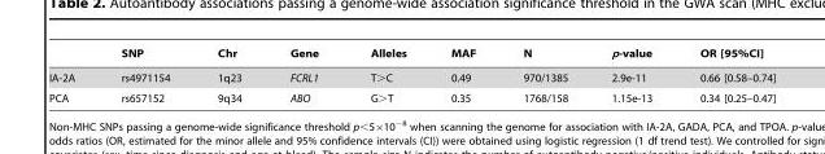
<table><thead><tr><td></td><td>SNP</td><td>Chr</td><td>Gene</td><td>Alleles</td><td>MAF</td><td>N</td><td>p-value</td><td>OR [95%CI]</td></tr></thead><tbody><tr><td>IA-2A</td><td>rs4971154</td><td>1q23</td><td>FCRL1</td><td>T&gt;C</td><td>0.49</td><td>970/1385</td><td>2.9e-11</td><td>0.66 [0.58–0.74]</td></tr><tr><td>PCA</td><td>rs657152</td><td>9q34</td><td>ABO</td><td>G&gt;T</td><td>0.35</td><td>1768/158</td><td>1.15e-13</td><td>0.34 [0.25–0.47]</td></tr></tbody></table>